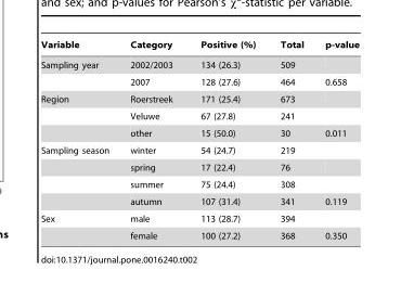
<table><thead><tr><td>Variable</td><td>Category</td><td>Positive (%)</td><td>Total</td><td>p-value</td></tr></thead><tbody><tr><td rowspan="2">Sampling year</td><td>2002/2003</td><td>134 (26.3)</td><td>509</td><td></td></tr><tr><td>2007</td><td>128 (27.6)</td><td>464</td><td>0.658</td></tr><tr><td rowspan="3">Region</td><td>Roerstreek</td><td>171 (25.4)</td><td>673</td><td></td></tr><tr><td>Veluwe</td><td>67 (27.8)</td><td>241</td><td></td></tr><tr><td>other</td><td>15 (50.0)</td><td>30</td><td>0.011</td></tr><tr><td rowspan="4">Sampling season</td><td>winter</td><td>54 (24.7)</td><td>219</td><td></td></tr><tr><td>spring</td><td>17 (22.4)</td><td>76</td><td></td></tr><tr><td>summer</td><td>75 (24.4)</td><td>308</td><td></td></tr><tr><td>autumn</td><td>107 (31.4)</td><td>341</td><td>0.119</td></tr><tr><td rowspan="2">Sex</td><td>male</td><td>113 (28.7)</td><td>394</td><td></td></tr><tr><td>female</td><td>100 (27.2)</td><td>368</td><td>0.350</td></tr></tbody></table>